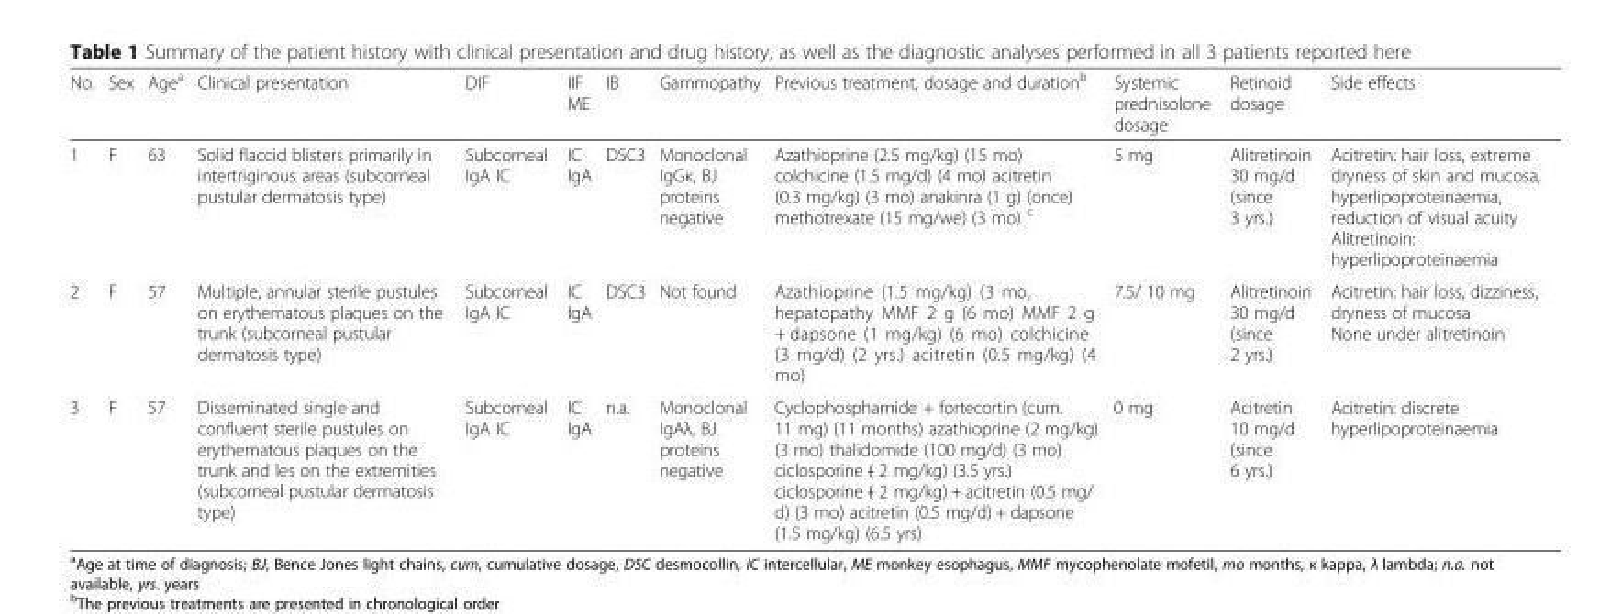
<table><thead><tr><td>No.</td><td>Sex</td><td>Age<sup>a</sup></td><td>Clinical presentation</td><td>DIF</td><td>IIF ME</td><td>IB</td><td>Gammopathy</td><td>Previous treatment, dosage and duration<sup>b</sup></td><td>Systemic prednisolone dosage</td><td>Retinoid dosage</td><td>Side effects</td></tr></thead><tbody><tr><td>1</td><td>F</td><td>63</td><td>Solid flaccid blisters primarily in intertriginous areas (subcorneal pustular dermatosis type)</td><td>Subcorneal IgA IC</td><td>IC IgA</td><td>DSC3</td><td>Monoclonal IgGκ, BJ proteins negative</td><td>Azathioprine (2.5 mg/kg) (15 mo) colchicine (1.5 mg/d) (4 mo) acitretin (0.3 mg/kg) (3 mo) anakinra (1 g) (once) methotrexate (15 mg/we) (3 mo) <sup>c</sup></td><td>5 mg</td><td>Alitretinoin 30 mg/d (since 3 yrs.)</td><td>Acitretin: hair loss, extreme dryness of skin and mucosa, hyperlipoproteinaemia, reduction of visual acuity Alitretinoin: hyperlipoproteinaemia</td></tr><tr><td>2</td><td>F</td><td>57</td><td>Multiple, annular sterile pustules on erythematous plaques on the trunk (subcorneal pustular dermatosis type)</td><td>Subcorneal IgA IC</td><td>IC IgA</td><td>DSC3</td><td>Not found</td><td>Azathioprine (1.5 mg/kg) (3 mo, hepatopathy MMF 2 g (6 mo) MMF 2 g + dapsone (1 mg/kg) (6 mo) colchicine (3 mg/d) (2 yrs.) acitretin (0.5 mg/kg) (4 mo)</td><td>7.5/ 10 mg</td><td>Alitretinoin 30 mg/d (since 2 yrs.)</td><td>Acitretin: hair loss, dizziness, dryness of mucosa None under alitretinoin</td></tr><tr><td>3</td><td>F</td><td>57</td><td>Disseminated single and confluent sterile pustules on erythematous plaques on the trunk and les on the extremities (subcorneal pustular dermatosis type)</td><td>Subcorneal IgA IC</td><td>IC IgA</td><td>n.a.</td><td>Monoclonal IgAλ, BJ proteins negative</td><td>Cyclophosphamide + fortecortin (cum. 11 mg) (11 months) azathioprine (2 mg/kg) (3 mo) thalidomide (100 mg/d) (3 mo) ciclosporine (̴ 2 mg/kg) (3.5 yrs.) ciclosporine (̴ 2 mg/kg) + acitretin (0.5 mg/ d) (3 mo) acitretin (0.5 mg/d) + dapsone (1.5 mg/kg) (6.5 yrs)</td><td>0 mg</td><td>Acitretin 10 mg/d (since 6 yrs.)</td><td>Acitretin: discrete hyperlipoproteinaemia</td></tr></tbody></table>